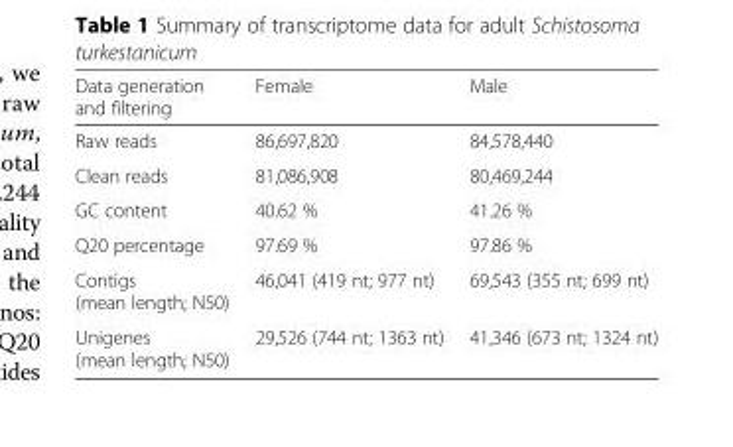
<table><thead><tr><td>Data generation and filtering</td><td>Female</td><td>Male</td></tr></thead><tbody><tr><td>Raw reads</td><td>86,697,820</td><td>84,578,440</td></tr><tr><td>Clean reads</td><td>81,086,908</td><td>80,469,244</td></tr><tr><td>GC content</td><td>40.62 %</td><td>41.26 %</td></tr><tr><td>Q20 percentage</td><td>97.69 %</td><td>97.86 %</td></tr><tr><td>Contigs (mean length; N50)</td><td>46,041 (419 nt; 977 nt)</td><td>69,543 (355 nt; 699 nt)</td></tr><tr><td>Unigenes (mean length; N50)</td><td>29,526 (744 nt; 1363 nt)</td><td>41,346 (673 nt; 1324 nt)</td></tr></tbody></table>